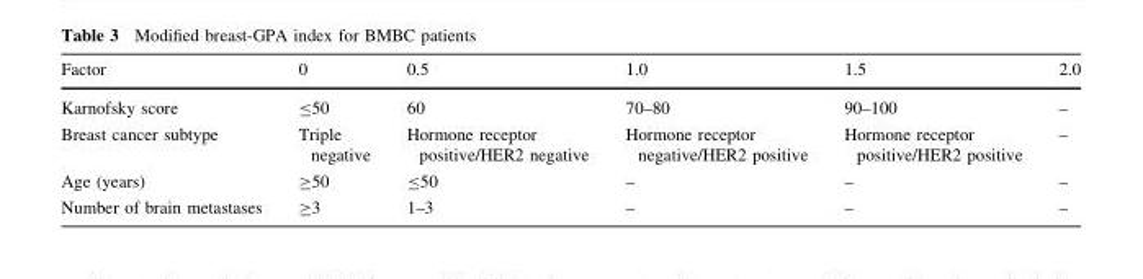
<table><thead><tr><td>Factor</td><td>0</td><td>0.5</td><td>1.0</td><td>1.5</td><td>2.0</td></tr></thead><tbody><tr><td>Karnofsky score</td><td>≤50</td><td>60</td><td>70–80</td><td>90–100</td><td>–</td></tr><tr><td>Breast cancer subtype</td><td>Triple negative</td><td>Hormone receptor positive/HER2 negative</td><td>Hormone receptor negative/HER2 positive</td><td>Hormone receptor positive/HER2 positive</td><td>–</td></tr><tr><td>Age (years)</td><td>≥50</td><td>≤50</td><td>–</td><td>–</td><td>–</td></tr><tr><td>Number of brain metastases</td><td>≥3</td><td>1–3</td><td>–</td><td>–</td><td>–</td></tr></tbody></table>